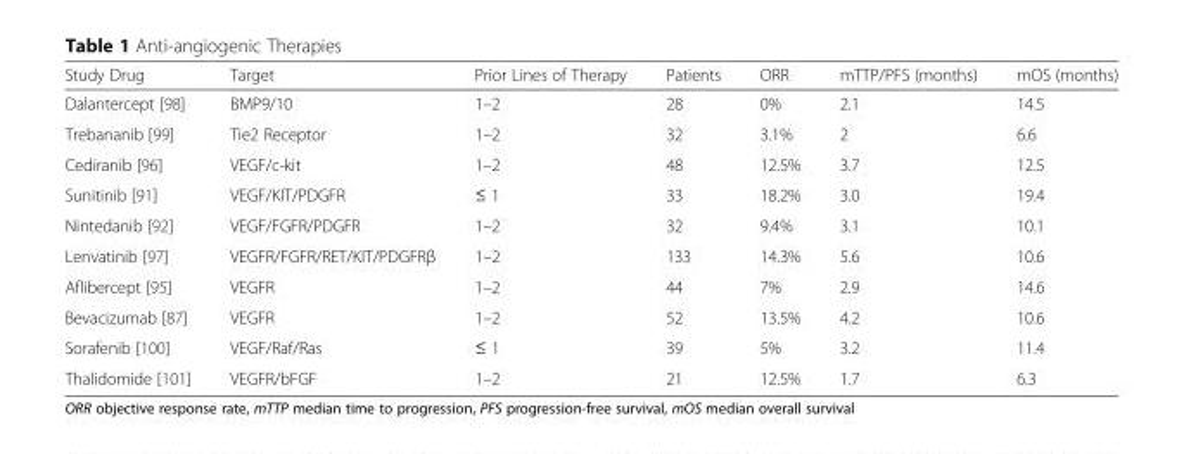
<table><thead><tr><td>Study Drug</td><td>Target</td><td>Prior Lines of Therapy</td><td>Patients</td><td>ORR</td><td>mTTP/PFS (months)</td><td>mOS (months)</td></tr></thead><tbody><tr><td>Dalantercept [98]</td><td>BMP9/10</td><td>1–2</td><td>28</td><td>0%</td><td>2.1</td><td>14.5</td></tr><tr><td>Trebananib [99]</td><td>Tie2 Receptor</td><td>1–2</td><td>32</td><td>3.1%</td><td>2</td><td>6.6</td></tr><tr><td>Cediranib [96]</td><td>VEGF/c-kit</td><td>1–2</td><td>48</td><td>12.5%</td><td>3.7</td><td>12.5</td></tr><tr><td>Sunitinib [91]</td><td>VEGF/KIT/PDGFR</td><td>≤ 1</td><td>33</td><td>18.2%</td><td>3.0</td><td>19.4</td></tr><tr><td>Nintedanib [92]</td><td>VEGF/FGFR/PDGFR</td><td>1–2</td><td>32</td><td>9.4%</td><td>3.1</td><td>10.1</td></tr><tr><td>Lenvatinib [97]</td><td>VEGFR/FGFR/RET/KIT/PDGFRβ</td><td>1–2</td><td>133</td><td>14.3%</td><td>5.6</td><td>10.6</td></tr><tr><td>Aflibercept [95]</td><td>VEGFR</td><td>1–2</td><td>44</td><td>7%</td><td>2.9</td><td>14.6</td></tr><tr><td>Bevacizumab [87]</td><td>VEGFR</td><td>1–2</td><td>52</td><td>13.5%</td><td>4.2</td><td>10.6</td></tr><tr><td>Sorafenib [100]</td><td>VEGF/Raf/Ras</td><td>≤ 1</td><td>39</td><td>5%</td><td>3.2</td><td>11.4</td></tr><tr><td>Thalidomide [101]</td><td>VEGFR/bFGF</td><td>1–2</td><td>21</td><td>12.5%</td><td>1.7</td><td>6.3</td></tr></tbody></table>